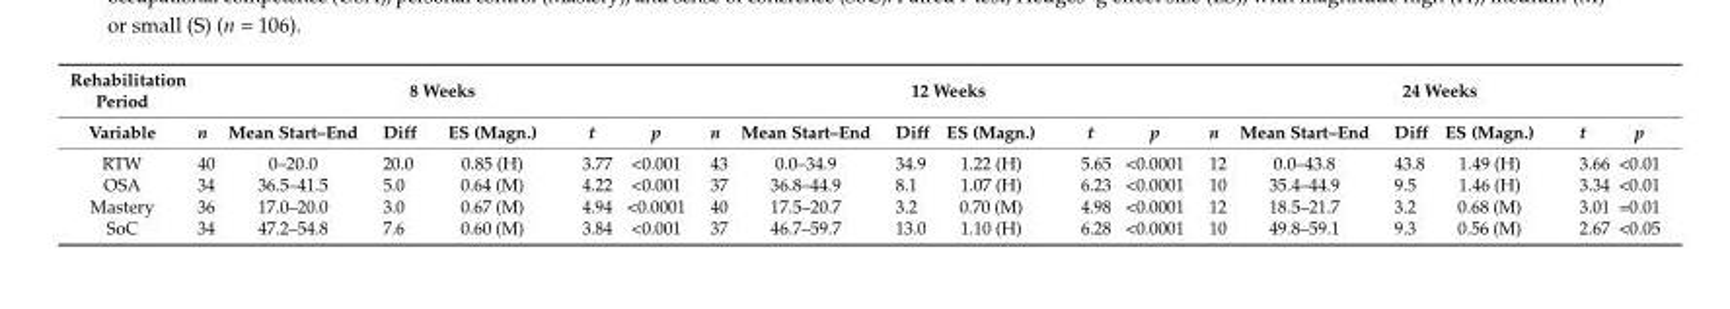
<table><thead><tr><td rowspan="2">Rehabilitation Period Variable</td><td colspan="6">8 Weeks</td><td colspan="6">12 Weeks</td><td colspan="6">24 Weeks</td></tr><tr><td>n</td><td>Mean Start–End</td><td>Diff</td><td>ES (Magn.)</td><td>t</td><td>p</td><td>n</td><td>Mean Start–End</td><td>Diff</td><td>ES (Magn.)</td><td>t</td><td>p</td><td>n</td><td>Mean Start–End</td><td>Diff</td><td>ES (Magn.)</td><td>t</td><td>p</td></tr></thead><tbody><tr><td>RTW</td><td>40</td><td>0–20.0</td><td>20.0</td><td>0.85 (H)</td><td>3.77</td><td>&lt;0.001</td><td>43</td><td>0.0–34.9</td><td>34.9</td><td>1.22 (H)</td><td>5.65</td><td>&lt;0.0001</td><td>12</td><td>0.0–43.8</td><td>43.8</td><td>1.49 (H)</td><td>3.66</td><td>&lt;0.01</td></tr><tr><td>OSA</td><td>34</td><td>36.5–41.5</td><td>5.0</td><td>0.64 (M)</td><td>4.22</td><td>&lt;0.001</td><td>37</td><td>36.8–44.9</td><td>8.1</td><td>1.07 (H)</td><td>6.23</td><td>&lt;0.0001</td><td>10</td><td>35.4–44.9</td><td>9.5</td><td>1.46 (H)</td><td>3.34</td><td>&lt;0.01</td></tr><tr><td>Mastery</td><td>36</td><td>17.0–20.0</td><td>3.0</td><td>0.67 (M)</td><td>4.94</td><td>&lt;0.0001</td><td>40</td><td>17.5–20.7</td><td>3.2</td><td>0.70 (M)</td><td>4.98</td><td>&lt;0.0001</td><td>12</td><td>18.5–21.7</td><td>3.2</td><td>0.68 (M)</td><td>3.01</td><td>=0.01</td></tr><tr><td>SoC</td><td>34</td><td>47.2–54.8</td><td>7.6</td><td>0.60 (M)</td><td>3.84</td><td>&lt;0.001</td><td>37</td><td>46.7–59.7</td><td>13.0</td><td>1.10 (H)</td><td>6.28</td><td>&lt;0.0001</td><td>10</td><td>49.8–59.1</td><td>9.3</td><td>0.56 (M)</td><td>2.67</td><td>&lt;0.05</td></tr></tbody></table>